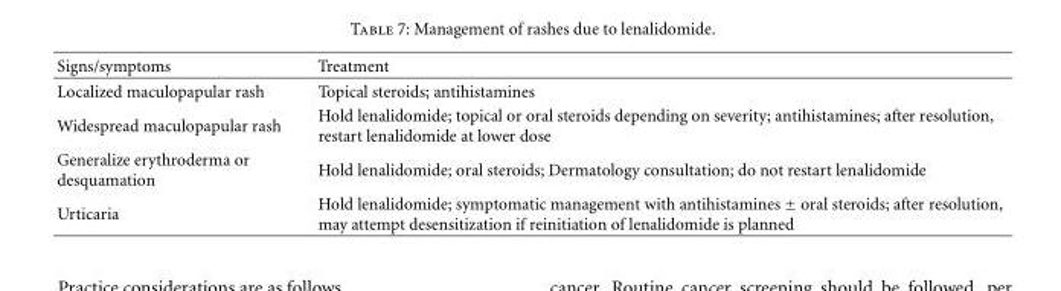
<table><thead><tr><td>Signs/symptoms</td><td>Treatment</td></tr></thead><tbody><tr><td>Localized maculopapular rash</td><td>Topical steroids; antihistamines</td></tr><tr><td>Widespread maculopapular rash</td><td>Hold lenalidomide; topical or oral steroids depending on severity; antihistamines; after resolution, restart lenalidomide at lower dose</td></tr><tr><td>Generalize erythroderma or desquamation</td><td>Hold lenalidomide; oral steroids; Dermatology consultation; do not restart lenalidomide</td></tr><tr><td>Urticaria</td><td>Hold lenalidomide; symptomatic management with antihistamines ± oral steroids; after resolution, may attempt desensitization if reinitiation of lenalidomide is planned</td></tr></tbody></table>